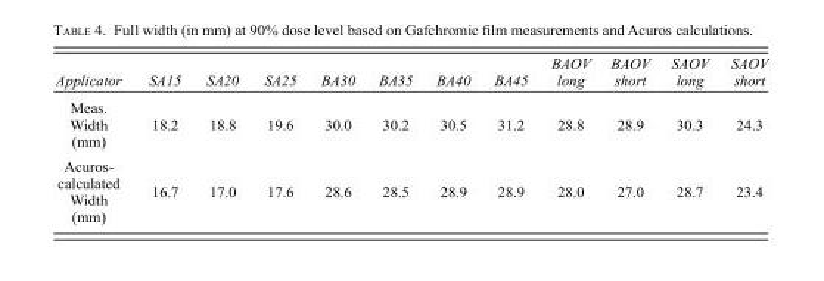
<table><thead><tr><td rowspan="2">Applicator</td><td rowspan="2">SA15</td><td rowspan="2">SA20</td><td rowspan="2">SA25</td><td rowspan="2">BA30</td><td rowspan="2">BA35</td><td rowspan="2">BA40</td><td rowspan="2">BA45</td><td rowspan="2">BAOV long</td><td rowspan="2">BAOV short</td><td rowspan="2">SAOV long</td><td rowspan="2">SAOV short</td></tr><tr></tr></thead><tbody><tr><td>Meas. Width (mm)</td><td>18.2</td><td>18.8</td><td>19.6</td><td>30.0</td><td>30.2</td><td>30.5</td><td>31.2</td><td>28.8</td><td>28.9</td><td>30.3</td><td>24.3</td></tr><tr><td>Acuros- calculated Width (mm)</td><td>16.7</td><td>17.0</td><td>17.6</td><td>28.6</td><td>28.5</td><td>28.9</td><td>28.9</td><td>28.0</td><td>27.0</td><td>28.7</td><td>23.4</td></tr></tbody></table>